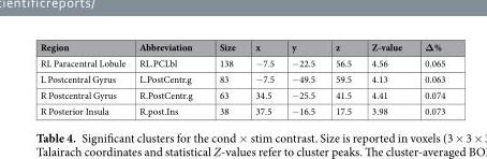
<table><thead><tr><td>Region</td><td>Abbreviation</td><td>Size</td><td>x</td><td>y</td><td>z</td><td>Z-value</td><td>Δ%</td></tr></thead><tbody><tr><td>RL Paracentral Lobule</td><td>RL.PCLbl</td><td>138</td><td>−7.5</td><td>−22.5</td><td>56.5</td><td>4.56</td><td>0.065</td></tr><tr><td>L Postcentral Gyrus</td><td>L.PostCentr.g</td><td>83</td><td>−7.5</td><td>−49.5</td><td>59.5</td><td>4.13</td><td>0.063</td></tr><tr><td>R Postcentral Gyrus</td><td>R.PostCentr.g</td><td>63</td><td>34.5</td><td>−25.5</td><td>41.5</td><td>4.41</td><td>0.074</td></tr><tr><td>R Posterior Insula</td><td>R.post.Ins</td><td>38</td><td>37.5</td><td>−16.5</td><td>17.5</td><td>3.98</td><td>0.073</td></tr></tbody></table>